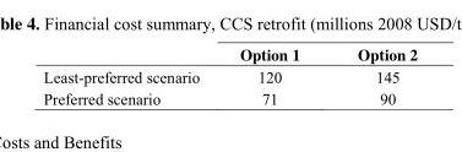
<table><thead><tr><td></td><td>Option 1</td><td>Option 2</td></tr></thead><tbody><tr><td>Least-preferred scenario</td><td>120</td><td>145</td></tr><tr><td>Preferred scenario</td><td>71</td><td>90</td></tr></tbody></table>